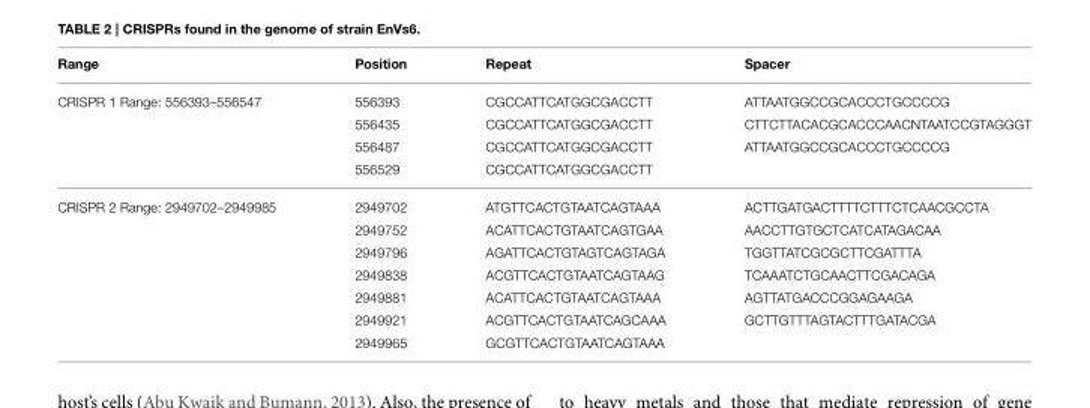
<table><thead><tr><td>Range</td><td>Position</td><td>Repeat</td><td>Spacer</td></tr></thead><tbody><tr><td rowspan="4">CRISPR 1 Range: 556393–556547</td><td>556393</td><td>CGCCATTCATGGCGACCTT</td><td>ATTAATGGCCGCACCCTGCCCCG</td></tr><tr><td>556435</td><td>CGCCATTCATGGCGACCTT</td><td>CTTCTTACACGCACCCAACNTAATCCGTAGGGT</td></tr><tr><td>556487</td><td>CGCCATTCATGGCGACCTT</td><td>ATTAATGGCCGCACCCTGCCCCG</td></tr><tr><td>556529</td><td>CGCCATTCATGGCGACCTT</td><td></td></tr><tr><td rowspan="7">CRISPR 2 Range: 2949702–2949985</td><td>2949702</td><td>ATGTTCACTGTAATCAGTAAA</td><td>ACTTGATGACTTTTCTTTCTCAACGCCTA</td></tr><tr><td>2949752</td><td>ACATTCACTGTAATCAGTGAA</td><td>AACCTTGTGCTCATCATAGACAA</td></tr><tr><td>2949796</td><td>AGATTCACTGTAGTCAGTAGA</td><td>TGGTTATCGCGCTTCGATTTA</td></tr><tr><td>2949838</td><td>ACGTTCACTGTAATCAGTAAG</td><td>TCAAATCTGCAACTTCGACAGA</td></tr><tr><td>2949881</td><td>ACATTCACTGTAATCAGTAAA</td><td>AGTTATGACCCGGAGAAGA</td></tr><tr><td>2949921</td><td>ACGTTCACTGTAATCAGCAAA</td><td>GCTTGTTTAGTACTTTGATACGA</td></tr><tr><td>2949965</td><td>GCGTTCACTGTAATCAGTAAA</td><td></td></tr></tbody></table>